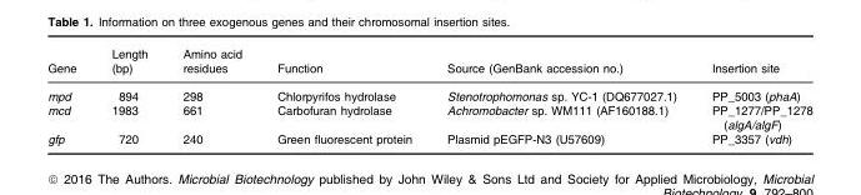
<table><thead><tr><td>Gene</td><td>Length (bp)</td><td>Amino acid residues</td><td>Function</td><td>Source (GenBank accession no.)</td><td>Insertion site</td></tr></thead><tbody><tr><td>mpd</td><td>894</td><td>298</td><td>Chlorpyrifos hydrolase</td><td>Stenotrophomonas sp. YC-1 (DQ677027.1)</td><td>PP_5003 (phaA)</td></tr><tr><td>mcd</td><td>1983</td><td>661</td><td>Carbofuran hydrolase</td><td>Achromobacter sp. WM111 (AF160188.1)</td><td>PP_1277/PP_1278 (algA/algF)</td></tr><tr><td>gfp</td><td>720</td><td>240</td><td>Green fluorescent protein</td><td>Plasmid pEGFP-N3 (U57609)</td><td>PP_3357 (vdh)</td></tr></tbody></table>